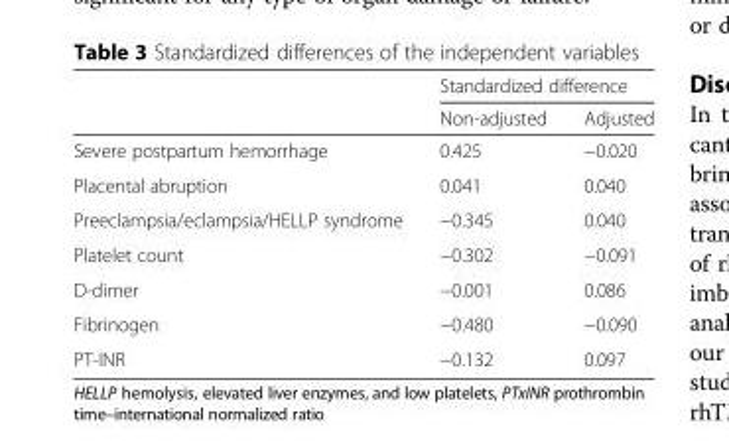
<table><thead><tr><td rowspan="2"></td><td colspan="2">Standardized difference</td></tr><tr><td>Non-adjusted</td><td>Adjusted</td></tr></thead><tbody><tr><td>Severe postpartum hemorrhage</td><td>0.425</td><td>−0.020</td></tr><tr><td>Placental abruption</td><td>0.041</td><td>0.040</td></tr><tr><td>Preeclampsia/eclampsia/HELLP syndrome</td><td>−0.345</td><td>0.040</td></tr><tr><td>Platelet count</td><td>−0.302</td><td>−0.091</td></tr><tr><td>D-dimer</td><td>−0.001</td><td>0.086</td></tr><tr><td>Fibrinogen</td><td>−0.480</td><td>−0.090</td></tr><tr><td>PT-INR</td><td>−0.132</td><td>0.097</td></tr></tbody></table>